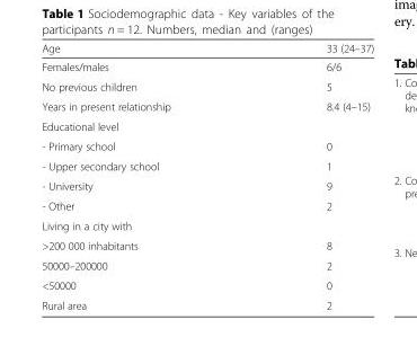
<table><thead><tr><td>Age</td><td>33 (24–37)</td></tr></thead><tbody><tr><td>Females/males</td><td>6/6</td></tr><tr><td>No previous children</td><td>5</td></tr><tr><td>Years in present relationship</td><td>8.4 (4–15)</td></tr><tr><td colspan="2">Educational level</td></tr><tr><td>- Primary school</td><td>0</td></tr><tr><td>- Upper secondary school</td><td>1</td></tr><tr><td>- University</td><td>9</td></tr><tr><td>- Other</td><td>2</td></tr><tr><td colspan="2">Living in a city with</td></tr><tr><td>&gt;200 000 inhabitants</td><td>8</td></tr><tr><td>50000–200000</td><td>2</td></tr><tr><td>&lt;50000</td><td>0</td></tr><tr><td>Rural area</td><td>2</td></tr></tbody></table>